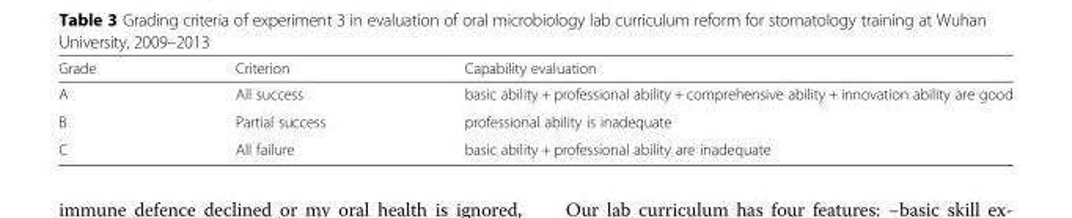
<table><thead><tr><td>Grade</td><td>Criterion</td><td>Capability evaluation</td></tr></thead><tbody><tr><td>A</td><td>All success</td><td>basic ability + professional ability + comprehensive ability + innovation ability are good</td></tr><tr><td>B</td><td>Partial success</td><td>professional ability is inadequate</td></tr><tr><td>C</td><td>All failure</td><td>basic ability + professional ability are inadequate</td></tr></tbody></table>